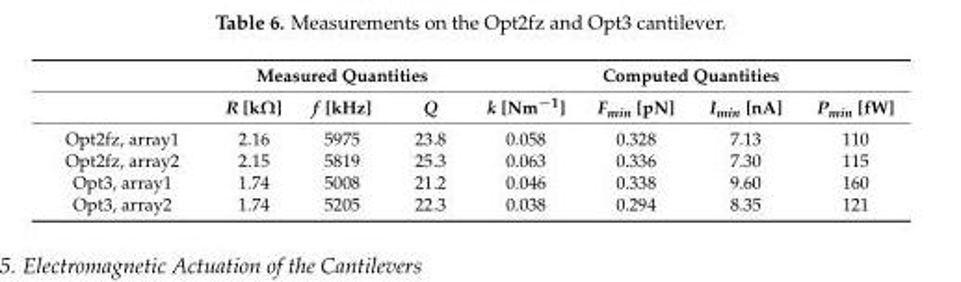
<table><thead><tr><td rowspan="2"></td><td colspan="3">Measured Quantities</td><td colspan="4">Computed Quantities</td></tr><tr><td>R [kΩ]</td><td>f [kHz]</td><td>Q</td><td>k [Nm<sup>−1</sup>]</td><td>F<sub>min</sub> [pN]</td><td>I<sub>min</sub> [nA]</td><td>P<sub>min</sub> [fW]</td></tr></thead><tbody><tr><td>Opt2fz, array1</td><td>2.16</td><td>5975</td><td>23.8</td><td>0.058</td><td>0.328</td><td>7.13</td><td>110</td></tr><tr><td>Opt2fz, array2</td><td>2.15</td><td>5819</td><td>25.3</td><td>0.063</td><td>0.336</td><td>7.30</td><td>115</td></tr><tr><td>Opt3, array1</td><td>1.74</td><td>5008</td><td>21.2</td><td>0.046</td><td>0.338</td><td>9.60</td><td>160</td></tr><tr><td>Opt3, array2</td><td>1.74</td><td>5205</td><td>22.3</td><td>0.038</td><td>0.294</td><td>8.35</td><td>121</td></tr></tbody></table>